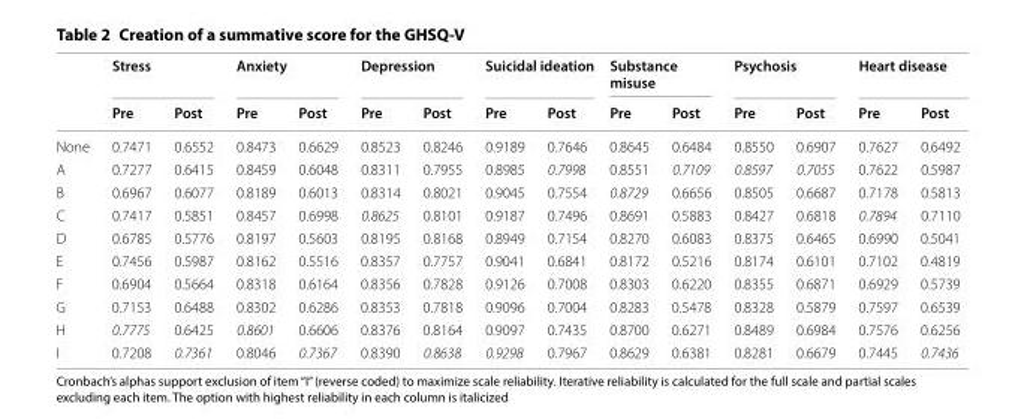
<table><thead><tr><td rowspan="2"></td><td colspan="2">Stress</td><td colspan="2">Anxiety</td><td colspan="2">Depression</td><td colspan="2">Suicidal ideation</td><td colspan="2">Substance misuse</td><td colspan="2">Psychosis</td><td colspan="2">Heart disease</td></tr><tr><td>Pre</td><td>Post</td><td>Pre</td><td>Post</td><td>Pre</td><td>Post</td><td>Pre</td><td>Post</td><td>Pre</td><td>Post</td><td>Pre</td><td>Post</td><td>Pre</td><td>Post</td></tr></thead><tbody><tr><td>None</td><td>0.7471</td><td>0.6552</td><td>0.8473</td><td>0.6629</td><td>0.8523</td><td>0.8246</td><td>0.9189</td><td>0.7646</td><td>0.8645</td><td>0.6484</td><td>0.8550</td><td>0.6907</td><td>0.7627</td><td>0.6492</td></tr><tr><td>A</td><td>0.7277</td><td>0.6415</td><td>0.8459</td><td>0.6048</td><td>0.8311</td><td>0.7955</td><td>0.8985</td><td>0.7998</td><td>0.8551</td><td>0.7109</td><td>0.8597</td><td>0.7055</td><td>0.7622</td><td>0.5987</td></tr><tr><td>B</td><td>0.6967</td><td>0.6077</td><td>0.8189</td><td>0.6013</td><td>0.8314</td><td>0.8021</td><td>0.9045</td><td>0.7554</td><td>0.8729</td><td>0.6656</td><td>0.8505</td><td>0.6687</td><td>0.7178</td><td>0.5813</td></tr><tr><td>C</td><td>0.7417</td><td>0.5851</td><td>0.8457</td><td>0.6998</td><td>0.8625</td><td>0.8101</td><td>0.9187</td><td>0.7496</td><td>0.8691</td><td>0.5883</td><td>0.8427</td><td>0.6818</td><td>0.7894</td><td>0.7110</td></tr><tr><td>D</td><td>0.6785</td><td>0.5776</td><td>0.8197</td><td>0.5603</td><td>0.8195</td><td>0.8168</td><td>0.8949</td><td>0.7154</td><td>0.8270</td><td>0.6083</td><td>0.8375</td><td>0.6465</td><td>0.6990</td><td>0.5041</td></tr><tr><td>E</td><td>0.7456</td><td>0.5987</td><td>0.8162</td><td>0.5516</td><td>0.8357</td><td>0.7757</td><td>0.9041</td><td>0.6841</td><td>0.8172</td><td>0.5216</td><td>0.8174</td><td>0.6101</td><td>0.7102</td><td>0.4819</td></tr><tr><td>F</td><td>0.6904</td><td>0.5664</td><td>0.8318</td><td>0.6164</td><td>0.8356</td><td>0.7828</td><td>0.9126</td><td>0.7008</td><td>0.8303</td><td>0.6220</td><td>0.8355</td><td>0.6871</td><td>0.6929</td><td>0.5739</td></tr><tr><td>G</td><td>0.7153</td><td>0.6488</td><td>0.8302</td><td>0.6286</td><td>0.8353</td><td>0.7818</td><td>0.9096</td><td>0.7004</td><td>0.8283</td><td>0.5478</td><td>0.8328</td><td>0.5879</td><td>0.7597</td><td>0.6539</td></tr><tr><td>H</td><td>0.7775</td><td>0.6425</td><td>0.8601</td><td>0.6606</td><td>0.8376</td><td>0.8164</td><td>0.9097</td><td>0.7435</td><td>0.8700</td><td>0.6271</td><td>0.8489</td><td>0.6984</td><td>0.7576</td><td>0.6256</td></tr><tr><td>I</td><td>0.7208</td><td>0.7361</td><td>0.8046</td><td>0.7367</td><td>0.8390</td><td>0.8638</td><td>0.9298</td><td>0.7967</td><td>0.8629</td><td>0.6381</td><td>0.8281</td><td>0.6679</td><td>0.7445</td><td>0.7436</td></tr></tbody></table>